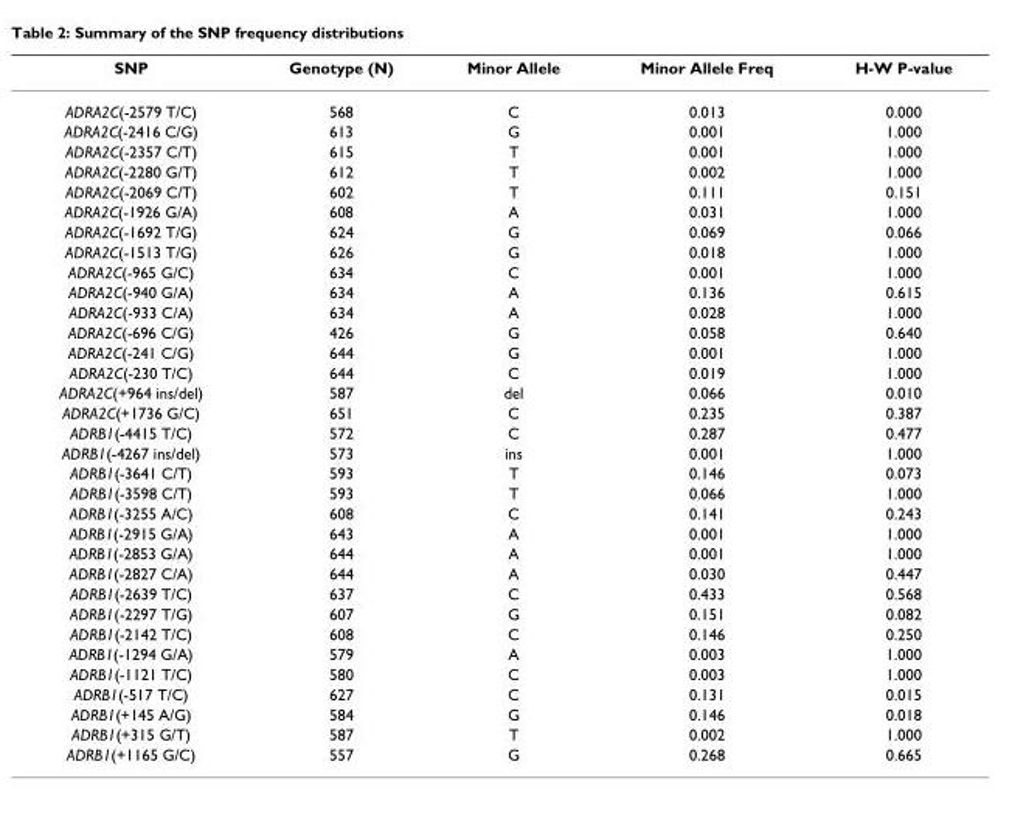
<table><thead><tr><td>SNP</td><td>Genotype (N)</td><td>Minor Allele</td><td>Minor Allele Freq</td><td>H-W P-value</td></tr></thead><tbody><tr><td>ADRA2C(-2579 T/C)</td><td>568</td><td>C</td><td>0.013</td><td>0.000</td></tr><tr><td>ADRA2C(-2416 C/G)</td><td>613</td><td>G</td><td>0.001</td><td>1.000</td></tr><tr><td>ADRA2C(-2357 C/T)</td><td>615</td><td>T</td><td>0.001</td><td>1.000</td></tr><tr><td>ADRA2C(-2280 G/T)</td><td>612</td><td>T</td><td>0.002</td><td>1.000</td></tr><tr><td>ADRA2C(-2069 C/T)</td><td>602</td><td>T</td><td>0.111</td><td>0.151</td></tr><tr><td>ADRA2C(-1926 G/A)</td><td>608</td><td>A</td><td>0.031</td><td>1.000</td></tr><tr><td>ADRA2C(-1692 T/G)</td><td>624</td><td>G</td><td>0.069</td><td>0.066</td></tr><tr><td>ADRA2C(-1513 T/G)</td><td>626</td><td>G</td><td>0.018</td><td>1.000</td></tr><tr><td>ADRA2C(-965 G/C)</td><td>634</td><td>C</td><td>0.001</td><td>1.000</td></tr><tr><td>ADRA2C(-940 G/A)</td><td>634</td><td>A</td><td>0.136</td><td>0.615</td></tr><tr><td>ADRA2C(-933 C/A)</td><td>634</td><td>A</td><td>0.028</td><td>1.000</td></tr><tr><td>ADRA2C(-696 C/G)</td><td>426</td><td>G</td><td>0.058</td><td>0.640</td></tr><tr><td>ADRA2C(-241 C/G)</td><td>644</td><td>G</td><td>0.001</td><td>1.000</td></tr><tr><td>ADRA2C(-230 T/C)</td><td>644</td><td>C</td><td>0.019</td><td>1.000</td></tr><tr><td>ADRA2C(+964 ins/del)</td><td>587</td><td>del</td><td>0.066</td><td>0.010</td></tr><tr><td>ADRA2C(+1736 G/C)</td><td>651</td><td>C</td><td>0.235</td><td>0.387</td></tr><tr><td>ADRB1(-4415 T/C)</td><td>572</td><td>C</td><td>0.287</td><td>0.477</td></tr><tr><td>ADRB1(-4267 ins/del)</td><td>573</td><td>ins</td><td>0.001</td><td>1.000</td></tr><tr><td>ADRB1(-3641 C/T)</td><td>593</td><td>T</td><td>0.146</td><td>0.073</td></tr><tr><td>ADRB1(-3598 C/T)</td><td>593</td><td>T</td><td>0.066</td><td>1.000</td></tr><tr><td>ADRB1(-3255 A/C)</td><td>608</td><td>C</td><td>0.141</td><td>0.243</td></tr><tr><td>ADRB1(-2915 G/A)</td><td>643</td><td>A</td><td>0.001</td><td>1.000</td></tr><tr><td>ADRB1(-2853 G/A)</td><td>644</td><td>A</td><td>0.001</td><td>1.000</td></tr><tr><td>ADRB1(-2827 C/A)</td><td>644</td><td>A</td><td>0.030</td><td>0.447</td></tr><tr><td>ADRB1(-2639 T/C)</td><td>637</td><td>C</td><td>0.433</td><td>0.568</td></tr><tr><td>ADRB1(-2297 T/G)</td><td>607</td><td>G</td><td>0.151</td><td>0.082</td></tr><tr><td>ADRB1(-2142 T/C)</td><td>608</td><td>C</td><td>0.146</td><td>0.250</td></tr><tr><td>ADRB1(-1294 G/A)</td><td>579</td><td>A</td><td>0.003</td><td>1.000</td></tr><tr><td>ADRB1(-1121 T/C)</td><td>580</td><td>C</td><td>0.003</td><td>1.000</td></tr><tr><td>ADRB1(-517 T/C)</td><td>627</td><td>C</td><td>0.131</td><td>0.015</td></tr><tr><td>ADRB1(+145 A/G)</td><td>584</td><td>G</td><td>0.146</td><td>0.018</td></tr><tr><td>ADRB1(+315 G/T)</td><td>587</td><td>T</td><td>0.002</td><td>1.000</td></tr><tr><td>ADRB1(+1165 G/C)</td><td>557</td><td>G</td><td>0.268</td><td>0.665</td></tr></tbody></table>